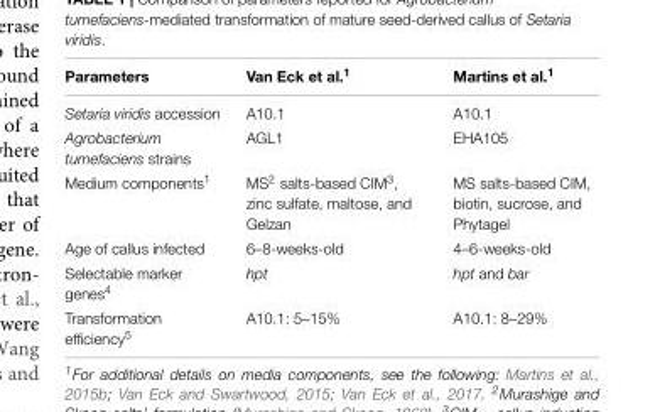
<table><thead><tr><td>Parameters</td><td>Van Eck et al.<sup>1</sup></td><td>Martins et al.<sup>1</sup></td></tr></thead><tbody><tr><td>Setaria viridis accession</td><td>A10.1</td><td>A10.1</td></tr><tr><td>Agrobacterium tumefaciens strains</td><td>AGL1</td><td>EHA105</td></tr><tr><td>Medium components<sup>1</sup></td><td>MS<sup>2</sup> salts-based CIM<sup>3</sup>, zinc sulfate, maltose, and Gelzan</td><td>MS salts-based CIM, biotin, sucrose, and Phytagel</td></tr><tr><td>Age of callus infected</td><td>6–8-weeks-old</td><td>4–6-weeks-old</td></tr><tr><td>Selectable marker genes<sup>4</sup></td><td>hpt</td><td>hpt and bar</td></tr><tr><td>Transformation efficiency<sup>5</sup></td><td>A10.1: 5–15%</td><td>A10.1: 8–29%</td></tr></tbody></table>